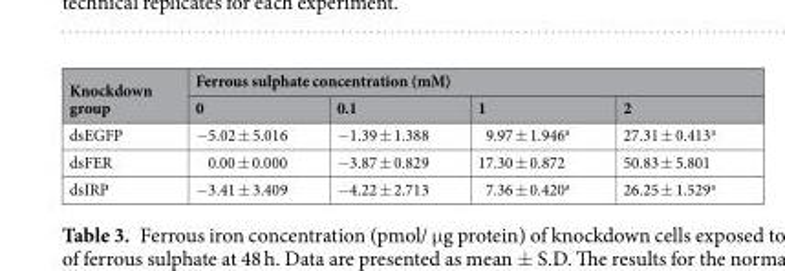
<table><thead><tr><td rowspan="2">Knockdown group</td><td colspan="4">Ferrous sulphate concentration (mM)</td></tr><tr><td>0</td><td>0.1</td><td>1</td><td>2</td></tr></thead><tbody><tr><td>dsEGFP</td><td>−5.02 ± 5.016</td><td>−1.39 ± 1.388</td><td>9.97 ± 1.946<sup>a</sup></td><td>27.31 ± 0.413<sup>a</sup></td></tr><tr><td>dsFER</td><td>0.00 ± 0.000</td><td>−3.87 ± 0.829</td><td>17.30 ± 0.872</td><td>50.83 ± 5.801</td></tr><tr><td>dsIRP</td><td>−3.41 ± 3.409</td><td>−4.22 ± 2.713</td><td>7.36 ± 0.420<sup>a</sup></td><td>26.25 ± 1.529<sup>a</sup></td></tr></tbody></table>